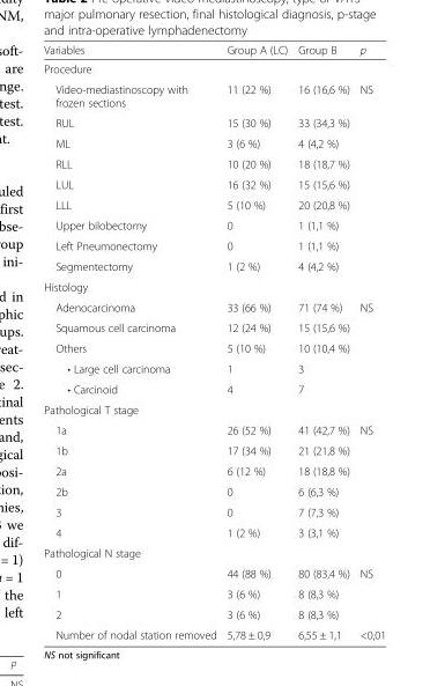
<table><thead><tr><td>Variables</td><td>Group A (LC)</td><td>Group B</td><td>p</td></tr></thead><tbody><tr><td colspan="4">Procedure</td></tr><tr><td>Video-mediastinoscopy with frozen sections</td><td>11 (22 %)</td><td>16 (16,6 %)</td><td>NS</td></tr><tr><td>RUL</td><td>15 (30 %)</td><td>33 (34,3 %)</td><td rowspan="8"></td></tr><tr><td>ML</td><td>3 (6 %)</td><td>4 (4,2 %)</td></tr><tr><td>RLL</td><td>10 (20 %)</td><td>18 (18,7 %)</td></tr><tr><td>LUL</td><td>16 (32 %)</td><td>15 (15,6 %)</td></tr><tr><td>LLL</td><td>5 (10 %)</td><td>20 (20,8 %)</td></tr><tr><td>Upper bilobectomy</td><td>0</td><td>1 (1,1 %)</td></tr><tr><td>Left Pneumonectomy</td><td>0</td><td>1 (1,1 %)</td></tr><tr><td>Segmentectomy</td><td>1 (2 %)</td><td>4 (4,2 %)</td></tr><tr><td colspan="4">Histology</td></tr><tr><td>Adenocarcinoma</td><td>33 (66 %)</td><td>71 (74 %)</td><td rowspan="5">NS</td></tr><tr><td>Squamous cell carcinoma</td><td>12 (24 %)</td><td>15 (15,6 %)</td></tr><tr><td>Others</td><td>5 (10 %)</td><td>10 (10,4 %)</td></tr><tr><td>• Large cell carcinoma</td><td>1</td><td>3</td></tr><tr><td>• Carcinoid</td><td>4</td><td>7</td></tr><tr><td colspan="4">Pathological T stage</td></tr><tr><td>1a</td><td>26 (52 %)</td><td>41 (42,7 %)</td><td rowspan="6">NS</td></tr><tr><td>1b</td><td>17 (34 %)</td><td>21 (21,8 %)</td></tr><tr><td>2a</td><td>6 (12 %)</td><td>18 (18,8 %)</td></tr><tr><td>2b</td><td>0</td><td>6 (6,3 %)</td></tr><tr><td>3</td><td>0</td><td>7 (7,3 %)</td></tr><tr><td>4</td><td>1 (2 %)</td><td>3 (3,1 %)</td></tr><tr><td colspan="4">Pathological N stage</td></tr><tr><td>0</td><td>44 (88 %)</td><td>80 (83,4 %)</td><td rowspan="3">NS</td></tr><tr><td>1</td><td>3 (6 %)</td><td>8 (8,3 %)</td></tr><tr><td>2</td><td>3 (6 %)</td><td>8 (8,3 %)</td></tr><tr><td>Number of nodal station removed</td><td>5,78 ± 0,9</td><td>6,55 ± 1,1</td><td>&lt;0,01</td></tr></tbody></table>